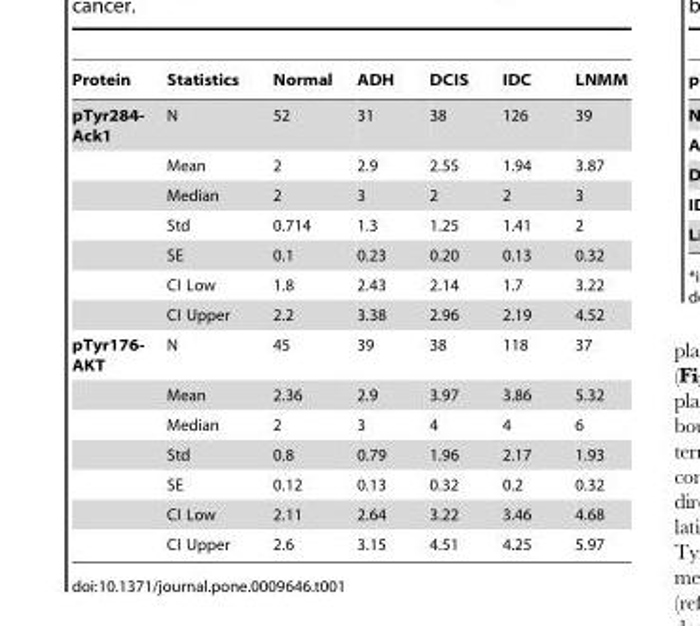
<table><thead><tr><td>Protein</td><td>Statistics</td><td>Normal</td><td>ADH</td><td>DCIS</td><td>IDC</td><td>LNMM</td></tr></thead><tbody><tr><td rowspan="7">pTyr284- Ack1</td><td>N</td><td>52</td><td>31</td><td>38</td><td>126</td><td>39</td></tr><tr><td>Mean</td><td>2</td><td>2.9</td><td>2.55</td><td>1.94</td><td>3.87</td></tr><tr><td>Median</td><td>2</td><td>3</td><td>2</td><td>2</td><td>3</td></tr><tr><td>Std</td><td>0.714</td><td>1.3</td><td>1.25</td><td>1.41</td><td>2</td></tr><tr><td>SE</td><td>0.1</td><td>0.23</td><td>0.20</td><td>0.13</td><td>0.32</td></tr><tr><td>CI Low</td><td>1.8</td><td>2.43</td><td>2.14</td><td>1.7</td><td>3.22</td></tr><tr><td>CI Upper</td><td>2.2</td><td>3.38</td><td>2.96</td><td>2.19</td><td>4.52</td></tr><tr><td rowspan="7">pTyr176- AKT</td><td>N</td><td>45</td><td>39</td><td>38</td><td>118</td><td>37</td></tr><tr><td>Mean</td><td>2.36</td><td>2.9</td><td>3.97</td><td>3.86</td><td>5.32</td></tr><tr><td>Median</td><td>2</td><td>3</td><td>4</td><td>4</td><td>6</td></tr><tr><td>Std</td><td>0.8</td><td>0.79</td><td>1.96</td><td>2.17</td><td>1.93</td></tr><tr><td>SE</td><td>0.12</td><td>0.13</td><td>0.32</td><td>0.2</td><td>0.32</td></tr><tr><td>CI Low</td><td>2.11</td><td>2.64</td><td>3.22</td><td>3.46</td><td>4.68</td></tr><tr><td>CI Upper</td><td>2.6</td><td>3.15</td><td>4.51</td><td>4.25</td><td>5.97</td></tr></tbody></table>